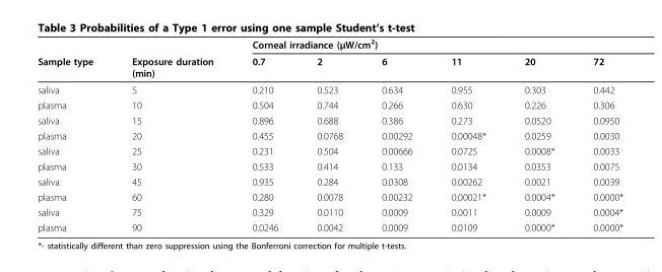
<table><thead><tr><td rowspan="2">Sample type</td><td rowspan="2">Exposure duration (min)</td><td colspan="6">Corneal irradiance (μW/cm<sup>2</sup>)</td></tr><tr><td>0.7</td><td>2</td><td>6</td><td>11</td><td>20</td><td>72</td></tr></thead><tbody><tr><td>saliva</td><td>5</td><td>0.210</td><td>0.523</td><td>0.634</td><td>0.955</td><td>0.303</td><td>0.442</td></tr><tr><td>plasma</td><td>10</td><td>0.504</td><td>0.744</td><td>0.266</td><td>0.630</td><td>0.226</td><td>0.306</td></tr><tr><td>saliva</td><td>15</td><td>0.896</td><td>0.688</td><td>0.386</td><td>0.273</td><td>0.0520</td><td>0.0950</td></tr><tr><td>plasma</td><td>20</td><td>0.455</td><td>0.0768</td><td>0.00292</td><td>0.00048*</td><td>0.0259</td><td>0.0030</td></tr><tr><td>saliva</td><td>25</td><td>0.231</td><td>0.504</td><td>0.00666</td><td>0.0725</td><td>0.0008*</td><td>0.0033</td></tr><tr><td>plasma</td><td>30</td><td>0.533</td><td>0.414</td><td>0.133</td><td>0.0134</td><td>0.0353</td><td>0.0075</td></tr><tr><td>saliva</td><td>45</td><td>0.935</td><td>0.284</td><td>0.0308</td><td>0.00262</td><td>0.0021</td><td>0.0039</td></tr><tr><td>plasma</td><td>60</td><td>0.280</td><td>0.0078</td><td>0.00232</td><td>0.00021*</td><td>0.0004*</td><td>0.0000*</td></tr><tr><td>saliva</td><td>75</td><td>0.329</td><td>0.0110</td><td>0.0009</td><td>0.0011</td><td>0.0009</td><td>0.0004*</td></tr><tr><td>plasma</td><td>90</td><td>0.0246</td><td>0.0042</td><td>0.0009</td><td>0.0109</td><td>0.0000*</td><td>0.0000*</td></tr></tbody></table>